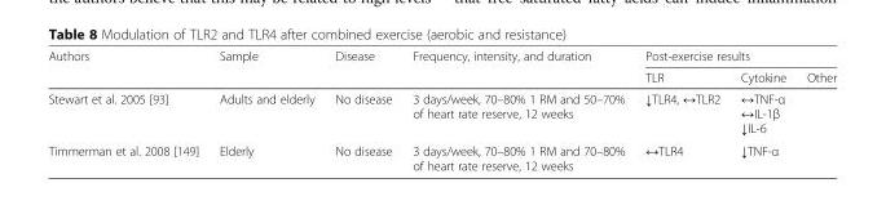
<table><thead><tr><td rowspan="2">Authors</td><td rowspan="2">Sample</td><td rowspan="2">Disease</td><td rowspan="2">Frequency, intensity, and duration</td><td colspan="3">Post-exercise results</td></tr><tr><td>TLR</td><td>Cytokine</td><td>Other</td></tr></thead><tbody><tr><td>Stewart et al. 2005 [93]</td><td>Adults and elderly</td><td>No disease</td><td>3 days/week, 70–80% 1 RM and 50–70% of heart rate reserve, 12 weeks</td><td>↓TLR4, ↔TLR2</td><td>↔TNF-α ↔IL-1β ↓IL-6</td><td></td></tr><tr><td>Timmerman et al. 2008 [149]</td><td>Elderly</td><td>No disease</td><td>3 days/week, 70–80% 1 RM and 70–80% of heart rate reserve, 12 weeks</td><td>↔TLR4</td><td>↓TNF-α</td><td></td></tr></tbody></table>